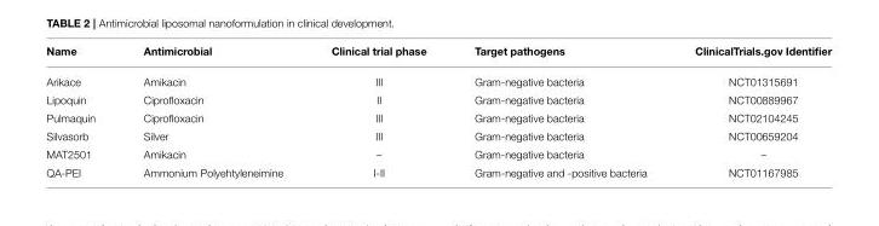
<table><thead><tr><td>Name</td><td>Antimicrobial</td><td>Clinical trial phase</td><td>Target pathogens</td><td>ClinicalTrials.gov Identifier</td></tr></thead><tbody><tr><td>Arikace</td><td>Amikacin</td><td>III</td><td>Gram-negative bacteria</td><td>NCT01315691</td></tr><tr><td>Lipoquin</td><td>Ciprofloxacin</td><td>II</td><td>Gram-negative bacteria</td><td>NCT00889967</td></tr><tr><td>Pulmaquin</td><td>Ciprofloxacin</td><td>III</td><td>Gram-negative bacteria</td><td>NCT02104245</td></tr><tr><td>Silvasorb</td><td>Silver</td><td>III</td><td>Gram-negative bacteria</td><td>NCT00659204</td></tr><tr><td>MAT2501</td><td>Amikacin</td><td>–</td><td>Gram-negative bacteria</td><td>–</td></tr><tr><td>QA-PEI</td><td>Ammonium Polyehtyleneimine</td><td>I-II</td><td>Gram-negative and -positive bacteria</td><td>NCT01167985</td></tr></tbody></table>